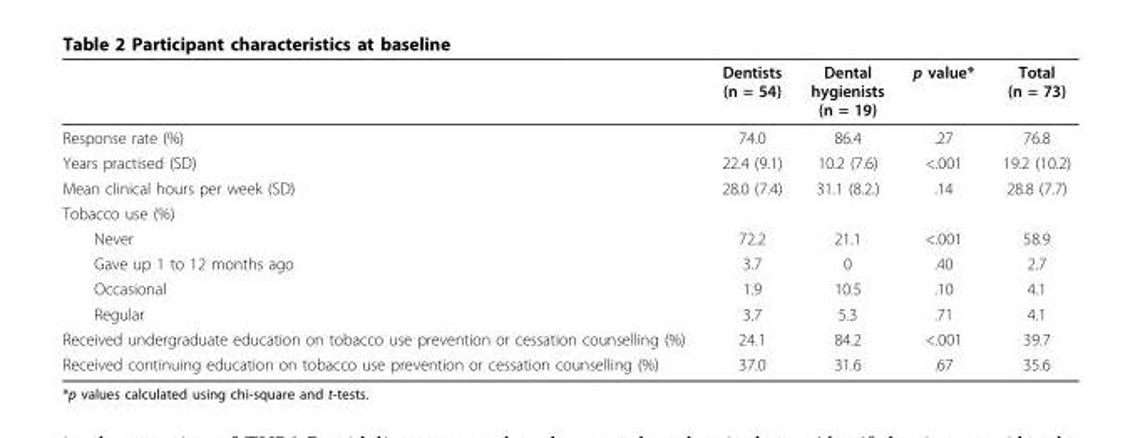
<table><thead><tr><td></td><td>Dentists (n = 54)</td><td>Dental hygienists (n = 19)</td><td>p value*</td><td>Total (n = 73)</td></tr></thead><tbody><tr><td>Response rate (%)</td><td>74.0</td><td>86.4</td><td>.27</td><td>76.8</td></tr><tr><td>Years practised (SD)</td><td>22.4 (9.1)</td><td>10.2 (7.6)</td><td>&lt;.001</td><td>19.2 (10.2)</td></tr><tr><td>Mean clinical hours per week (SD)</td><td>28.0 (7.4)</td><td>31.1 (8.2.)</td><td>.14</td><td>28.8 (7.7)</td></tr><tr><td colspan="5">Tobacco use (%)</td></tr><tr><td>Never</td><td>72.2</td><td>21.1</td><td>&lt;.001</td><td>58.9</td></tr><tr><td>Gave up 1 to 12 months ago</td><td>3.7</td><td>0</td><td>.40</td><td>2.7</td></tr><tr><td>Occasional</td><td>1.9</td><td>10.5</td><td>.10</td><td>4.1</td></tr><tr><td>Regular</td><td>3.7</td><td>5.3</td><td>.71</td><td>4.1</td></tr><tr><td>Received undergraduate education on tobacco use prevention or cessation counselling (%)</td><td>24.1</td><td>84.2</td><td>&lt;.001</td><td>39.7</td></tr><tr><td>Received continuing education on tobacco use prevention or cessation counselling (%)</td><td>37.0</td><td>31.6</td><td>.67</td><td>35.6</td></tr></tbody></table>